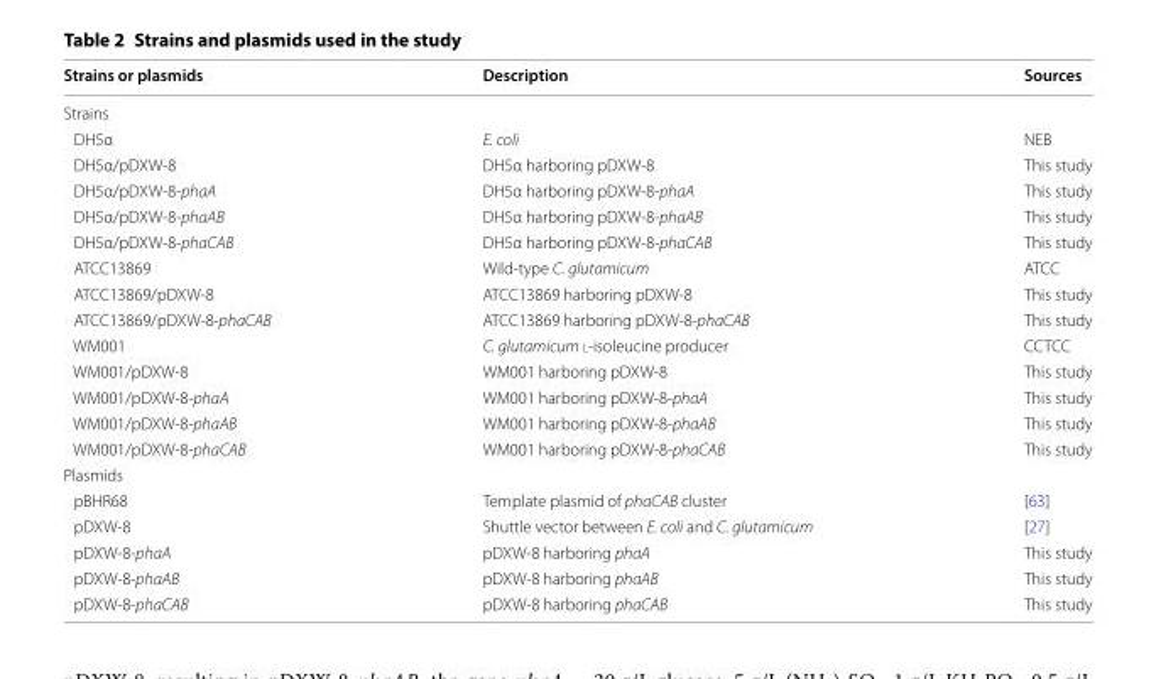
<table><thead><tr><td>Strains or plasmids</td><td>Description</td><td>Sources</td></tr></thead><tbody><tr><td colspan="3">Strains</td></tr><tr><td>DH5α</td><td>E. coli</td><td>NEB</td></tr><tr><td>DH5α/pDXW-8</td><td>DH5α harboring pDXW-8</td><td>This study</td></tr><tr><td>DH5α/pDXW-8-phaA</td><td>DH5α harboring pDXW-8-phaA</td><td>This study</td></tr><tr><td>DH5α/pDXW-8-phaAB</td><td>DH5α harboring pDXW-8-phaAB</td><td>This study</td></tr><tr><td>DH5α/pDXW-8-phaCAB</td><td>DH5α harboring pDXW-8-phaCAB</td><td>This study</td></tr><tr><td>ATCC13869</td><td>Wild-type C. glutamicum</td><td>ATCC</td></tr><tr><td>ATCC13869/pDXW-8</td><td>ATCC13869 harboring pDXW-8</td><td>This study</td></tr><tr><td>ATCC13869/pDXW-8-phaCAB</td><td>ATCC13869 harboring pDXW-8-phaCAB</td><td>This study</td></tr><tr><td>WM001</td><td>C. glutamicum l-isoleucine producer</td><td>CCTCC</td></tr><tr><td>WM001/pDXW-8</td><td>WM001 harboring pDXW-8</td><td>This study</td></tr><tr><td>WM001/pDXW-8-phaA</td><td>WM001 harboring pDXW-8-phaA</td><td>This study</td></tr><tr><td>WM001/pDXW-8-phaAB</td><td>WM001 harboring pDXW-8-phaAB</td><td>This study</td></tr><tr><td>WM001/pDXW-8-phaCAB</td><td>WM001 harboring pDXW-8-phaCAB</td><td>This study</td></tr><tr><td colspan="3">Plasmids</td></tr><tr><td>pBHR68</td><td>Template plasmid of phaCAB cluster</td><td>[63]</td></tr><tr><td>pDXW-8</td><td>Shuttle vector between E. coli and C. glutamicum</td><td>[27]</td></tr><tr><td>pDXW-8-phaA</td><td>pDXW-8 harboring phaA</td><td>This study</td></tr><tr><td>pDXW-8-phaAB</td><td>pDXW-8 harboring phaAB</td><td>This study</td></tr><tr><td>pDXW-8-phaCAB</td><td>pDXW-8 harboring phaCAB</td><td>This study</td></tr></tbody></table>